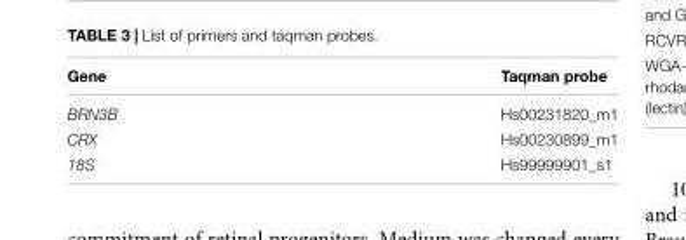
<table><thead><tr><td>Gene</td><td>Taqman probe</td></tr></thead><tbody><tr><td>BRN3B</td><td>Hs00231820_m1</td></tr><tr><td>CRX</td><td>Hs00230899_m1</td></tr><tr><td>18S</td><td>Hs99999901_s1</td></tr></tbody></table>